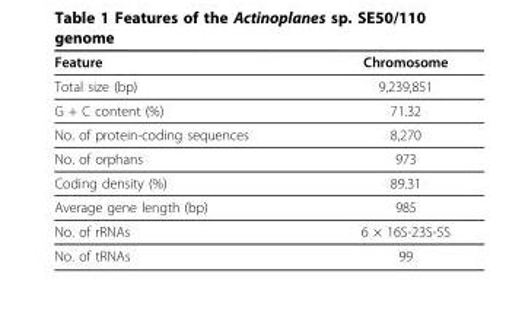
<table><thead><tr><td>Feature</td><td>Chromosome</td></tr></thead><tbody><tr><td>Total size (bp)</td><td>9,239,851</td></tr><tr><td>G + C content (%)</td><td>71.32</td></tr><tr><td>No. of protein-coding sequences</td><td>8,270</td></tr><tr><td>No. of orphans</td><td>973</td></tr><tr><td>Coding density (%)</td><td>89.31</td></tr><tr><td>Average gene length (bp)</td><td>985</td></tr><tr><td>No. of rRNAs</td><td>6 × 16S-23S-5S</td></tr><tr><td>No. of tRNAs</td><td>99</td></tr></tbody></table>